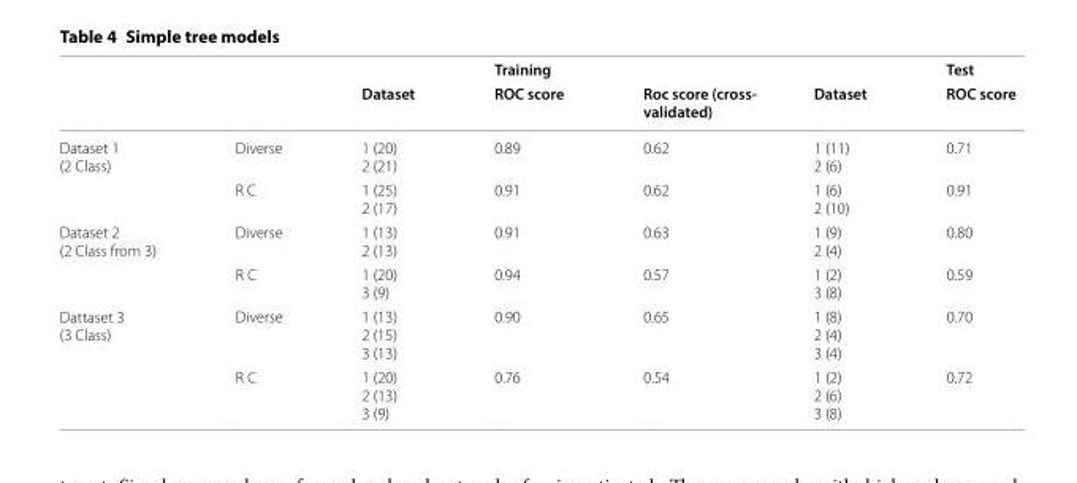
<table><thead><tr><td rowspan="2"></td><td rowspan="2"></td><td rowspan="2">Dataset</td><td rowspan="2">Training ROC score</td><td rowspan="2">Roc score (cross- validated)</td><td rowspan="2">Dataset</td><td rowspan="2">Test ROC score</td></tr><tr></tr></thead><tbody><tr><td rowspan="2">Dataset 1 (2 Class)</td><td>Diverse</td><td>1 (20) 2 (21)</td><td>0.89</td><td>0.62</td><td>1 (11) 2 (6)</td><td>0.71</td></tr><tr><td>R C</td><td>1 (25) 2 (17)</td><td>0.91</td><td>0.62</td><td>1 (6) 2 (10)</td><td>0.91</td></tr><tr><td rowspan="2">Dataset 2 (2 Class from 3)</td><td>Diverse</td><td>1 (13) 2 (13)</td><td>0.91</td><td>0.63</td><td>1 (9) 2 (4)</td><td>0.80</td></tr><tr><td>R C</td><td>1 (20) 3 (9)</td><td>0.94</td><td>0.57</td><td>1 (2) 3 (8)</td><td>0.59</td></tr><tr><td rowspan="2">Dattaset 3 (3 Class)</td><td>Diverse</td><td>1 (13) 2 (15) 3 (13)</td><td>0.90</td><td>0.65</td><td>1 (8) 2 (4) 3 (4)</td><td>0.70</td></tr><tr><td>R C</td><td>1 (20) 2 (13) 3 (9)</td><td>0.76</td><td>0.54</td><td>1 (2) 2 (6) 3 (8)</td><td>0.72</td></tr></tbody></table>